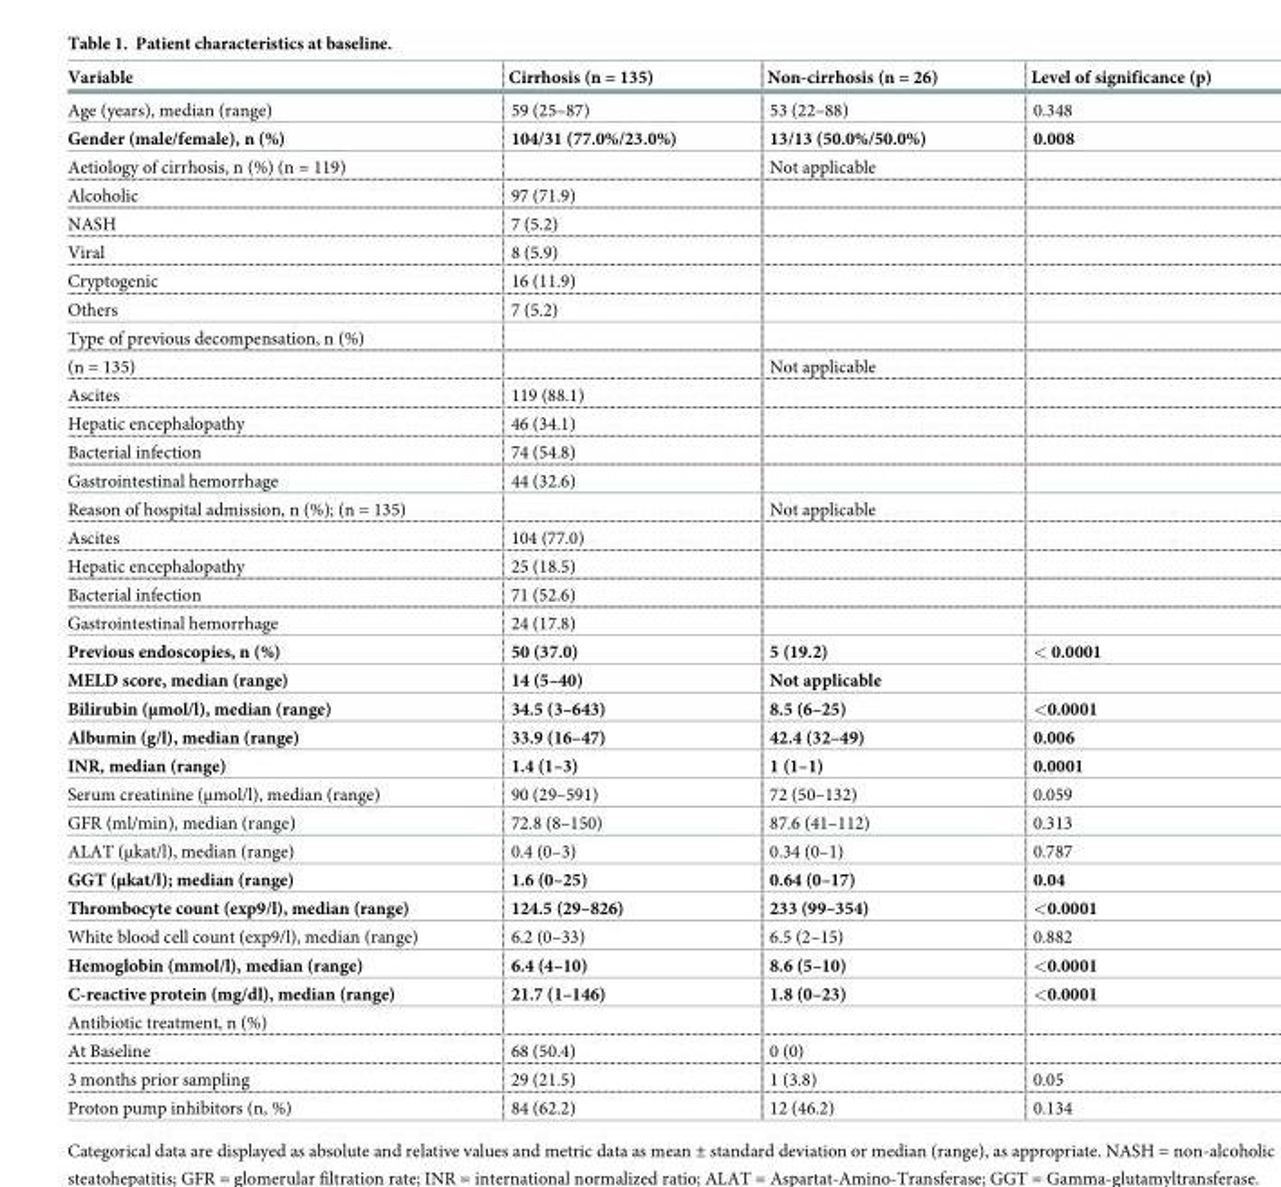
<table><thead><tr><td>Variable</td><td>Cirrhosis (n = 135)</td><td>Non-cirrhosis (n = 26)</td><td>Level of significance (p)</td></tr></thead><tbody><tr><td>Age (years), median (range)</td><td>59 (25–87)</td><td>53 (22–88)</td><td>0.348</td></tr><tr><td>Gender (male/female), n (%)</td><td>104/31 (77.0%/23.0%)</td><td>13/13 (50.0%/50.0%)</td><td>0.008</td></tr><tr><td>Aetiology of cirrhosis, n (%) (n = 119)</td><td></td><td>Not applicable</td><td></td></tr><tr><td>Alcoholic</td><td>97 (71.9)</td><td></td><td></td></tr><tr><td>NASH</td><td>7 (5.2)</td><td></td><td></td></tr><tr><td>Viral</td><td>8 (5.9)</td><td></td><td></td></tr><tr><td>Cryptogenic</td><td>16 (11.9)</td><td></td><td></td></tr><tr><td>Others</td><td>7 (5.2)</td><td></td><td></td></tr><tr><td colspan="4">Type of previous decompensation, n (%)</td></tr><tr><td>(n = 135)</td><td></td><td>Not applicable</td><td></td></tr><tr><td>Ascites</td><td>119 (88.1)</td><td></td><td></td></tr><tr><td>Hepatic encephalopathy</td><td>46 (34.1)</td><td></td><td></td></tr><tr><td>Bacterial infection</td><td>74 (54.8)</td><td></td><td></td></tr><tr><td>Gastrointestinal hemorrhage</td><td>44 (32.6)</td><td></td><td></td></tr><tr><td>Reason of hospital admission, n (%); (n = 135)</td><td></td><td>Not applicable</td><td></td></tr><tr><td>Ascites</td><td>104 (77.0)</td><td></td><td></td></tr><tr><td>Hepatic encephalopathy</td><td>25 (18.5)</td><td></td><td></td></tr><tr><td>Bacterial infection</td><td>71 (52.6)</td><td></td><td></td></tr><tr><td>Gastrointestinal hemorrhage</td><td>24 (17.8)</td><td></td><td></td></tr><tr><td>Previous endoscopies, n (%)</td><td>50 (37.0)</td><td>5 (19.2)</td><td>&lt; 0.0001</td></tr><tr><td>MELD score, median (range)</td><td>14 (5–40)</td><td>Not applicable</td><td></td></tr><tr><td>Bilirubin (μmol/l), median (range)</td><td>34.5 (3–643)</td><td>8.5 (6–25)</td><td>&lt;0.0001</td></tr><tr><td>Albumin (g/l), median (range)</td><td>33.9 (16–47)</td><td>42.4 (32–49)</td><td>0.006</td></tr><tr><td>INR, median (range)</td><td>1.4 (1–3)</td><td>1 (1–1)</td><td>0.0001</td></tr><tr><td>Serum creatinine (μmol/l), median (range)</td><td>90 (29–591)</td><td>72 (50–132)</td><td>0.059</td></tr><tr><td>GFR (ml/min), median (range)</td><td>72.8 (8–150)</td><td>87.6 (41–112)</td><td>0.313</td></tr><tr><td>ALAT (μkat/l), median (range)</td><td>0.4 (0–3)</td><td>0.34 (0–1)</td><td>0.787</td></tr><tr><td>GGT (μkat/l); median (range)</td><td>1.6 (0–25)</td><td>0.64 (0–17)</td><td>0.04</td></tr><tr><td>Thrombocyte count (exp9/l), median (range)</td><td>124.5 (29–826)</td><td>233 (99–354)</td><td>&lt;0.0001</td></tr><tr><td>White blood cell count (exp9/l), median (range)</td><td>6.2 (0–33)</td><td>6.5 (2–15)</td><td>0.882</td></tr><tr><td>Hemoglobin (mmol/l), median (range)</td><td>6.4 (4–10)</td><td>8.6 (5–10)</td><td>&lt;0.0001</td></tr><tr><td>C-reactive protein (mg/dl), median (range)</td><td>21.7 (1–146)</td><td>1.8 (0–23)</td><td>&lt;0.0001</td></tr><tr><td colspan="4">Antibiotic treatment, n (%)</td></tr><tr><td>At Baseline</td><td>68 (50.4)</td><td>0 (0)</td><td></td></tr><tr><td>3 months prior sampling</td><td>29 (21.5)</td><td>1 (3.8)</td><td>0.05</td></tr><tr><td>Proton pump inhibitors (n, %)</td><td>84 (62.2)</td><td>12 (46.2)</td><td>0.134</td></tr></tbody></table>